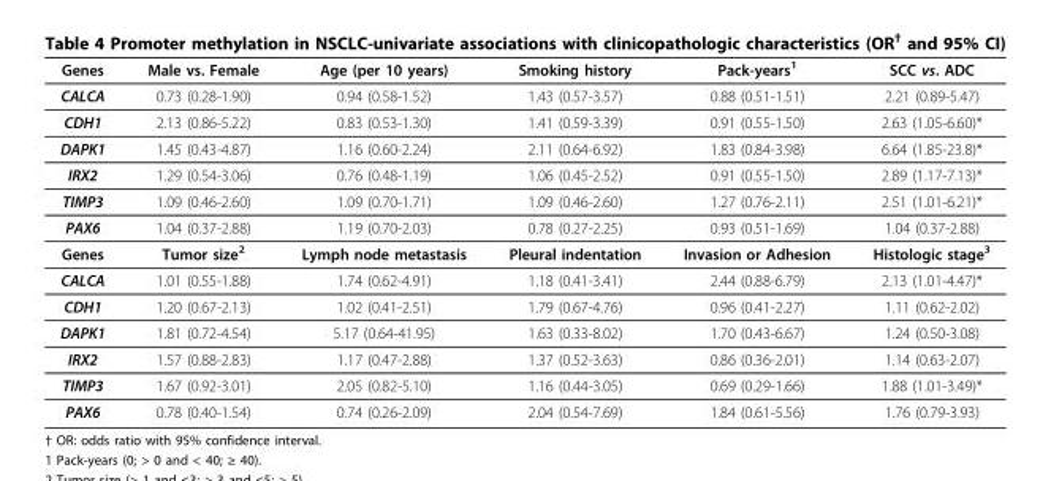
<table><thead><tr><td>Genes</td><td>Male vs. Female</td><td>Age (per 10 years)</td><td>Smoking history</td><td>Pack-years<sup>1</sup></td><td>SCC vs. ADC</td></tr></thead><tbody><tr><td>CALCA</td><td>0.73 (0.28-1.90)</td><td>0.94 (0.58-1.52)</td><td>1.43 (0.57-3.57)</td><td>0.88 (0.51-1.51)</td><td>2.21 (0.89-5.47)</td></tr><tr><td>CDH1</td><td>2.13 (0.86-5.22)</td><td>0.83 (0.53-1.30)</td><td>1.41 (0.59-3.39)</td><td>0.91 (0.55-1.50)</td><td>2.63 (1.05-6.60)*</td></tr><tr><td>DAPK1</td><td>1.45 (0.43-4.87)</td><td>1.16 (0.60-2.24)</td><td>2.11 (0.64-6.92)</td><td>1.83 (0.84-3.98)</td><td>6.64 (1.85-23.8)*</td></tr><tr><td>IRX2</td><td>1.29 (0.54-3.06)</td><td>0.76 (0.48-1.19)</td><td>1.06 (0.45-2.52)</td><td>0.91 (0.55-1.50)</td><td>2.89 (1.17-7.13)*</td></tr><tr><td>TIMP3</td><td>1.09 (0.46-2.60)</td><td>1.09 (0.70-1.71)</td><td>1.09 (0.46-2.60)</td><td>1.27 (0.76-2.11)</td><td>2.51 (1.01-6.21)*</td></tr><tr><td>PAX6</td><td>1.04 (0.37-2.88)</td><td>1.19 (0.70-2.03)</td><td>0.78 (0.27-2.25)</td><td>0.93 (0.51-1.69)</td><td>1.04 (0.37-2.88)</td></tr><tr><td>Genes</td><td>Tumor size<sup>2</sup></td><td>Lymph node metastasis</td><td>Pleural indentation</td><td>Invasion or Adhesion</td><td>Histologic stage<sup>3</sup></td></tr><tr><td>CALCA</td><td>1.01 (0.55-1.88)</td><td>1.74 (0.62-4.91)</td><td>1.18 (0.41-3.41)</td><td>2.44 (0.88-6.79)</td><td>2.13 (1.01-4.47)*</td></tr><tr><td>CDH1</td><td>1.20 (0.67-2.13)</td><td>1.02 (0.41-2.51)</td><td>1.79 (0.67-4.76)</td><td>0.96 (0.41-2.27)</td><td>1.11 (0.62-2.02)</td></tr><tr><td>DAPK1</td><td>1.81 (0.72-4.54)</td><td>5.17 (0.64-41.95)</td><td>1.63 (0.33-8.02)</td><td>1.70 (0.43-6.67)</td><td>1.24 (0.50-3.08)</td></tr><tr><td>IRX2</td><td>1.57 (0.88-2.83)</td><td>1.17 (0.47-2.88)</td><td>1.37 (0.52-3.63)</td><td>0.86 (0.36-2.01)</td><td>1.14 (0.63-2.07)</td></tr><tr><td>TIMP3</td><td>1.67 (0.92-3.01)</td><td>2.05 (0.82-5.10)</td><td>1.16 (0.44-3.05)</td><td>0.69 (0.29-1.66)</td><td>1.88 (1.01-3.49)*</td></tr><tr><td>PAX6</td><td>0.78 (0.40-1.54)</td><td>0.74 (0.26-2.09)</td><td>2.04 (0.54-7.69)</td><td>1.84 (0.61-5.56)</td><td>1.76 (0.79-3.93)</td></tr></tbody></table>